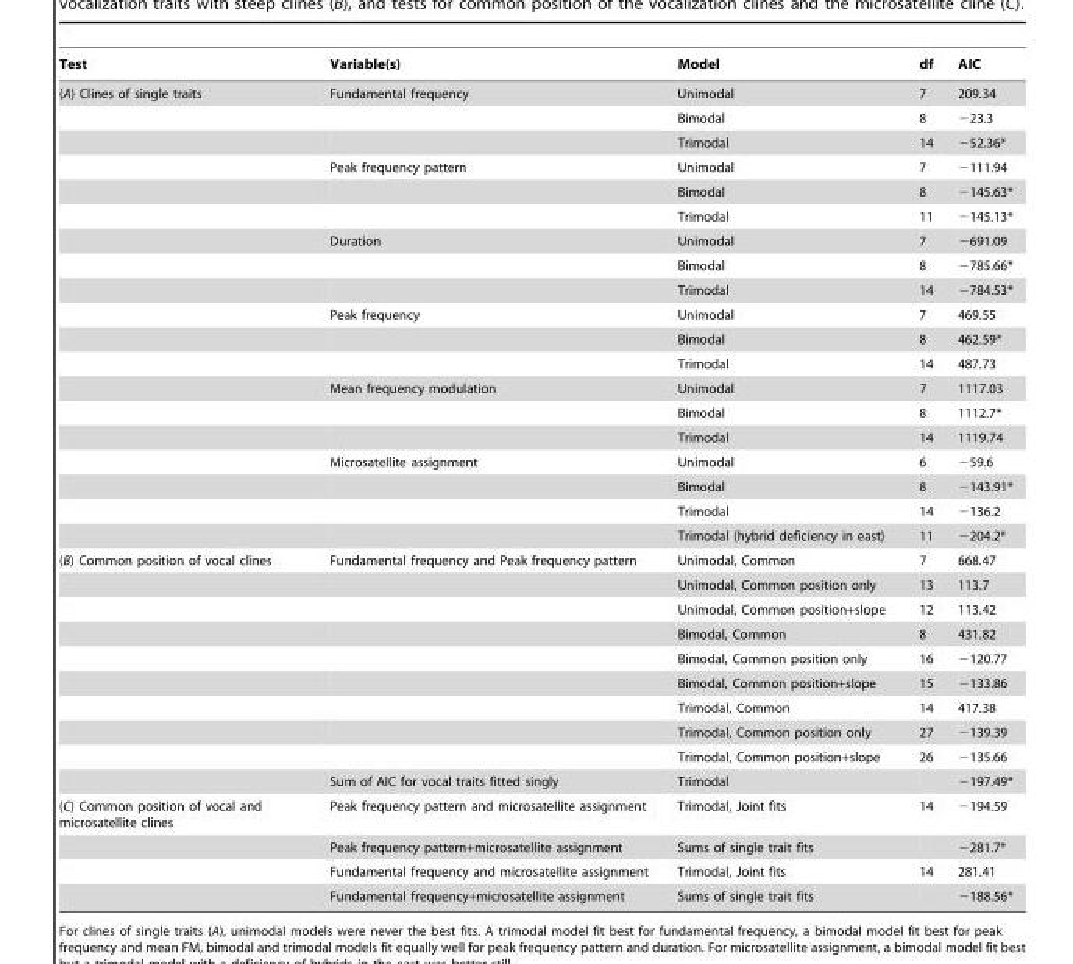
<table><thead><tr><td>Test</td><td>Variable(s)</td><td>Model</td><td>df</td><td>AIC</td></tr></thead><tbody><tr><td rowspan="19">(A) Clines of single traits</td><td>Fundamental frequency</td><td>Unimodal</td><td>7</td><td>209.34</td></tr><tr><td></td><td>Bimodal</td><td>8</td><td>−23.3</td></tr><tr><td></td><td>Trimodal</td><td>14</td><td>−52.36*</td></tr><tr><td>Peak frequency pattern</td><td>Unimodal</td><td>7</td><td>−111.94</td></tr><tr><td></td><td>Bimodal</td><td>8</td><td>−145.63*</td></tr><tr><td></td><td>Trimodal</td><td>11</td><td>−145.13*</td></tr><tr><td>Duration</td><td>Unimodal</td><td>7</td><td>−691.09</td></tr><tr><td></td><td>Bimodal</td><td>8</td><td>−785.66*</td></tr><tr><td></td><td>Trimodal</td><td>14</td><td>−784.53*</td></tr><tr><td>Peak frequency</td><td>Unimodal</td><td>7</td><td>469.55</td></tr><tr><td></td><td>Bimodal</td><td>8</td><td>462.59*</td></tr><tr><td></td><td>Trimodal</td><td>14</td><td>487.73</td></tr><tr><td>Mean frequency modulation</td><td>Unimodal</td><td>7</td><td>1117.03</td></tr><tr><td></td><td>Bimodal</td><td>8</td><td>1112.7*</td></tr><tr><td></td><td>Trimodal</td><td>14</td><td>1119.74</td></tr><tr><td>Microsatellite assignment</td><td>Unimodal</td><td>6</td><td>−59.6</td></tr><tr><td></td><td>Bimodal</td><td>8</td><td>−143.91*</td></tr><tr><td></td><td>Trimodal</td><td>14</td><td>−136.2</td></tr><tr><td></td><td>Trimodal (hybrid deficiency in east)</td><td>11</td><td>−204.2*</td></tr><tr><td rowspan="10">(B) Common position of vocal clines</td><td>Fundamental frequency and Peak frequency pattern</td><td>Unimodal, Common</td><td>7</td><td>668.47</td></tr><tr><td></td><td>Unimodal, Common position only</td><td>13</td><td>113.7</td></tr><tr><td></td><td>Unimodal, Common position+slope</td><td>12</td><td>113.42</td></tr><tr><td></td><td>Bimodal, Common</td><td>8</td><td>431.82</td></tr><tr><td></td><td>Bimodal, Common position only</td><td>16</td><td>−120.77</td></tr><tr><td></td><td>Bimodal, Common position+slope</td><td>15</td><td>−133.86</td></tr><tr><td></td><td>Trimodal, Common</td><td>14</td><td>417.38</td></tr><tr><td></td><td>Trimodal, Common position only</td><td>27</td><td>−139.39</td></tr><tr><td></td><td>Trimodal, Common position+slope</td><td>26</td><td>−135.66</td></tr><tr><td>Sum of AIC for vocal traits fitted singly</td><td>Trimodal</td><td></td><td>−197.49*</td></tr><tr><td rowspan="4">(C) Common position of vocal and microsatellite clines</td><td>Peak frequency pattern and microsatellite assignment</td><td>Trimodal, Joint fits</td><td>14</td><td>−194.59</td></tr><tr><td>Peak frequency pattern+microsatellite assignment</td><td>Sums of single trait fits</td><td></td><td>−281.7*</td></tr><tr><td>Fundamental frequency and microsatellite assignment</td><td>Trimodal, Joint fits</td><td>14</td><td>281.41</td></tr><tr><td>Fundamental frequency+microsatellite assignment</td><td>Sums of single trait fits</td><td></td><td>−188.56*</td></tr></tbody></table>